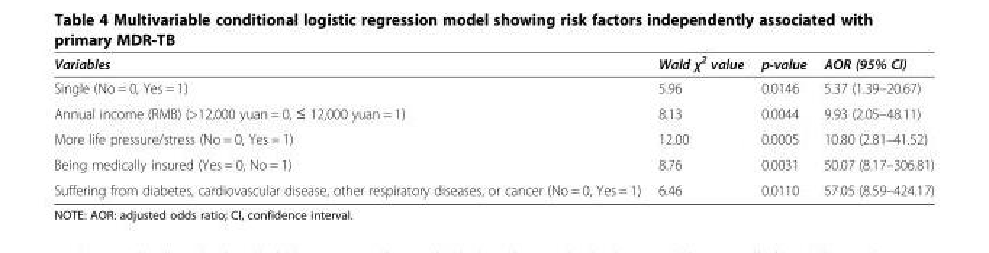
<table><thead><tr><td>Variables</td><td>Wald χ<sup>2</sup> value</td><td>p-value</td><td>AOR (95% CI)</td></tr></thead><tbody><tr><td>Single (No = 0, Yes = 1)</td><td>5.96</td><td>0.0146</td><td>5.37 (1.39–20.67)</td></tr><tr><td>Annual income (RMB) (&gt;12,000 yuan = 0, ≤ 12,000 yuan = 1)</td><td>8.13</td><td>0.0044</td><td>9.93 (2.05–48.11)</td></tr><tr><td>More life pressure/stress (No = 0, Yes = 1)</td><td>12.00</td><td>0.0005</td><td>10.80 (2.81–41.52)</td></tr><tr><td>Being medically insured (Yes = 0, No = 1)</td><td>8.76</td><td>0.0031</td><td>50.07 (8.17–306.81)</td></tr><tr><td>Suffering from diabetes, cardiovascular disease, other respiratory diseases, or cancer (No = 0, Yes = 1)</td><td>6.46</td><td>0.0110</td><td>57.05 (8.59–424.17)</td></tr></tbody></table>